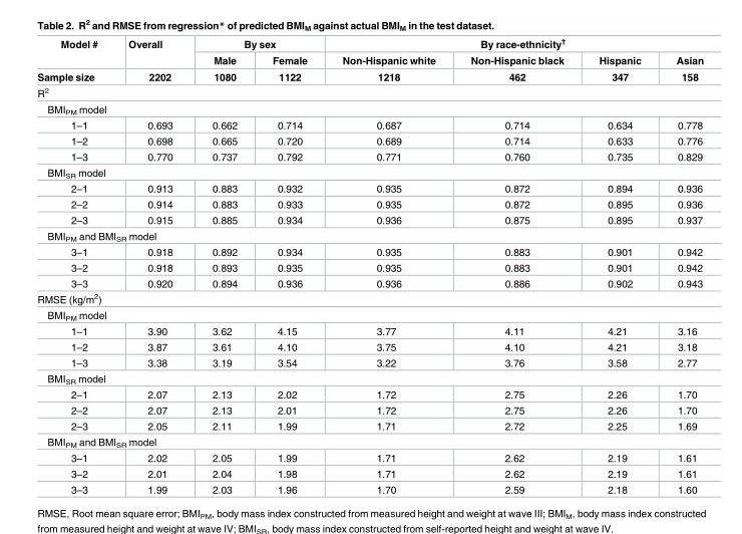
<table><thead><tr><td rowspan="3">Model # Sample size</td><td rowspan="3">Overall 2202</td><td colspan="2">By sex</td><td colspan="4">By race-ethnicity<sup>†</sup></td></tr><tr><td rowspan="2">Male 1080</td><td rowspan="2">Female 1122</td><td rowspan="2">Non-Hispanic white 1218</td><td rowspan="2">Non-Hispanic black 462</td><td rowspan="2">Hispanic 347</td><td rowspan="2">Asian 158</td></tr><tr></tr></thead><tbody><tr><td colspan="8">R<sup>2</sup></td></tr><tr><td colspan="8">BMI<sub>PM</sub> model</td></tr><tr><td>1–1</td><td>0.693</td><td>0.662</td><td>0.714</td><td>0.687</td><td>0.714</td><td>0.634</td><td>0.778</td></tr><tr><td>1–2</td><td>0.698</td><td>0.665</td><td>0.720</td><td>0.689</td><td>0.714</td><td>0.633</td><td>0.776</td></tr><tr><td>1–3</td><td>0.770</td><td>0.737</td><td>0.792</td><td>0.771</td><td>0.760</td><td>0.735</td><td>0.829</td></tr><tr><td colspan="8">BMI<sub>SR</sub> model</td></tr><tr><td>2–1</td><td>0.913</td><td>0.883</td><td>0.932</td><td>0.935</td><td>0.872</td><td>0.894</td><td>0.936</td></tr><tr><td>2–2</td><td>0.914</td><td>0.883</td><td>0.933</td><td>0.935</td><td>0.872</td><td>0.895</td><td>0.936</td></tr><tr><td>2–3</td><td>0.915</td><td>0.885</td><td>0.934</td><td>0.936</td><td>0.875</td><td>0.895</td><td>0.937</td></tr><tr><td colspan="8">BMI<sub>PM</sub> and BMI<sub>SR</sub> model</td></tr><tr><td>3–1</td><td>0.918</td><td>0.892</td><td>0.934</td><td>0.935</td><td>0.883</td><td>0.901</td><td>0.942</td></tr><tr><td>3–2</td><td>0.918</td><td>0.893</td><td>0.935</td><td>0.935</td><td>0.883</td><td>0.901</td><td>0.942</td></tr><tr><td>3–3</td><td>0.920</td><td>0.894</td><td>0.936</td><td>0.936</td><td>0.886</td><td>0.902</td><td>0.943</td></tr><tr><td colspan="8">RMSE (kg/m<sup>2</sup>)</td></tr><tr><td colspan="8">BMI<sub>PM</sub> model</td></tr><tr><td>1–1</td><td>3.90</td><td>3.62</td><td>4.15</td><td>3.77</td><td>4.11</td><td>4.21</td><td>3.16</td></tr><tr><td>1–2</td><td>3.87</td><td>3.61</td><td>4.10</td><td>3.75</td><td>4.10</td><td>4.21</td><td>3.18</td></tr><tr><td>1–3</td><td>3.38</td><td>3.19</td><td>3.54</td><td>3.22</td><td>3.76</td><td>3.58</td><td>2.77</td></tr><tr><td colspan="8">BMI<sub>SR</sub> model</td></tr><tr><td>2–1</td><td>2.07</td><td>2.13</td><td>2.02</td><td>1.72</td><td>2.75</td><td>2.26</td><td>1.70</td></tr><tr><td>2–2</td><td>2.07</td><td>2.13</td><td>2.01</td><td>1.72</td><td>2.75</td><td>2.26</td><td>1.70</td></tr><tr><td>2–3</td><td>2.05</td><td>2.11</td><td>1.99</td><td>1.71</td><td>2.72</td><td>2.25</td><td>1.69</td></tr><tr><td colspan="8">BMI<sub>PM</sub> and BMI<sub>SR</sub> model</td></tr><tr><td>3–1</td><td>2.02</td><td>2.05</td><td>1.99</td><td>1.71</td><td>2.62</td><td>2.19</td><td>1.61</td></tr><tr><td>3–2</td><td>2.01</td><td>2.04</td><td>1.98</td><td>1.71</td><td>2.62</td><td>2.19</td><td>1.61</td></tr><tr><td>3–3</td><td>1.99</td><td>2.03</td><td>1.96</td><td>1.70</td><td>2.59</td><td>2.18</td><td>1.60</td></tr></tbody></table>